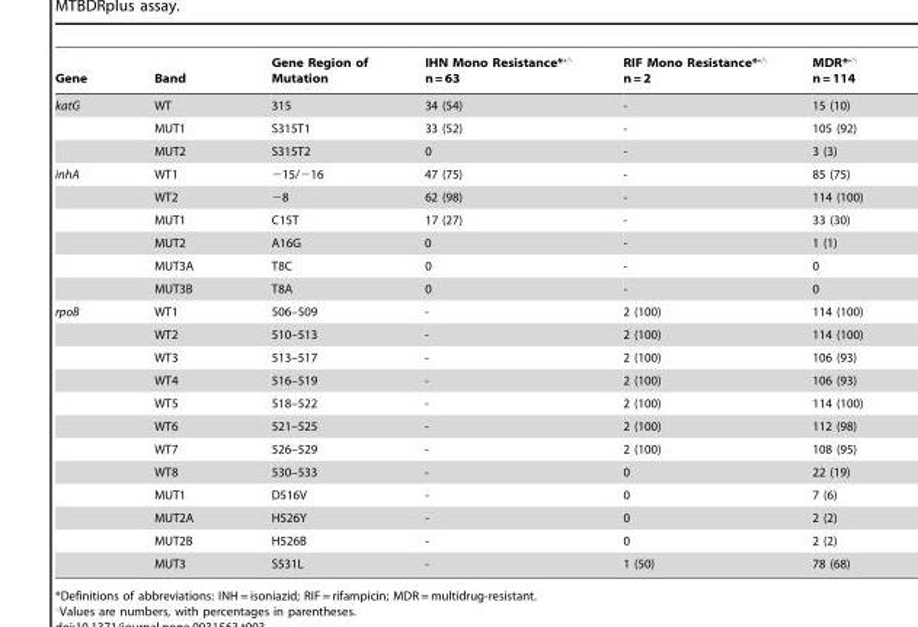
<table><thead><tr><td>Gene</td><td>Band</td><td>Gene Region of Mutation</td><td>IHN Mono Resistance*,‘ n = 63</td><td>RIF Mono Resistance*,‘ n = 2</td><td>MDR*,‘ n = 114</td></tr></thead><tbody><tr><td rowspan="3">katG</td><td>WT</td><td>315</td><td>34 (54)</td><td>-</td><td>15 (10)</td></tr><tr><td>MUT1</td><td>S315T1</td><td>33 (52)</td><td>-</td><td>105 (92)</td></tr><tr><td>MUT2</td><td>S315T2</td><td>0</td><td>-</td><td>3 (3)</td></tr><tr><td rowspan="6">inhA</td><td>WT1</td><td>−15/−16</td><td>47 (75)</td><td>-</td><td>85 (75)</td></tr><tr><td>WT2</td><td>−8</td><td>62 (98)</td><td>-</td><td>114 (100)</td></tr><tr><td>MUT1</td><td>C15T</td><td>17 (27)</td><td>-</td><td>33 (30)</td></tr><tr><td>MUT2</td><td>A16G</td><td>0</td><td>-</td><td>1 (1)</td></tr><tr><td>MUT3A</td><td>T8C</td><td>0</td><td>-</td><td>0</td></tr><tr><td>MUT3B</td><td>T8A</td><td>0</td><td>-</td><td>0</td></tr><tr><td rowspan="12">rpoB</td><td>WT1</td><td>506–509</td><td>-</td><td>2 (100)</td><td>114 (100)</td></tr><tr><td>WT2</td><td>510–513</td><td>-</td><td>2 (100)</td><td>114 (100)</td></tr><tr><td>WT3</td><td>513–517</td><td>-</td><td>2 (100)</td><td>106 (93)</td></tr><tr><td>WT4</td><td>516–519</td><td>-</td><td>2 (100)</td><td>106 (93)</td></tr><tr><td>WT5</td><td>518–522</td><td>-</td><td>2 (100)</td><td>114 (100)</td></tr><tr><td>WT6</td><td>521–525</td><td>-</td><td>2 (100)</td><td>112 (98)</td></tr><tr><td>WT7</td><td>526–529</td><td>-</td><td>2 (100)</td><td>108 (95)</td></tr><tr><td>WT8</td><td>530–533</td><td>-</td><td>0</td><td>22 (19)</td></tr><tr><td>MUT1</td><td>D516V</td><td>-</td><td>0</td><td>7 (6)</td></tr><tr><td>MUT2A</td><td>H526Y</td><td>-</td><td>0</td><td>2 (2)</td></tr><tr><td>MUT2B</td><td>H526B</td><td>-</td><td>0</td><td>2 (2)</td></tr><tr><td>MUT3</td><td>S531L</td><td>-</td><td>1 (50)</td><td>78 (68)</td></tr></tbody></table>